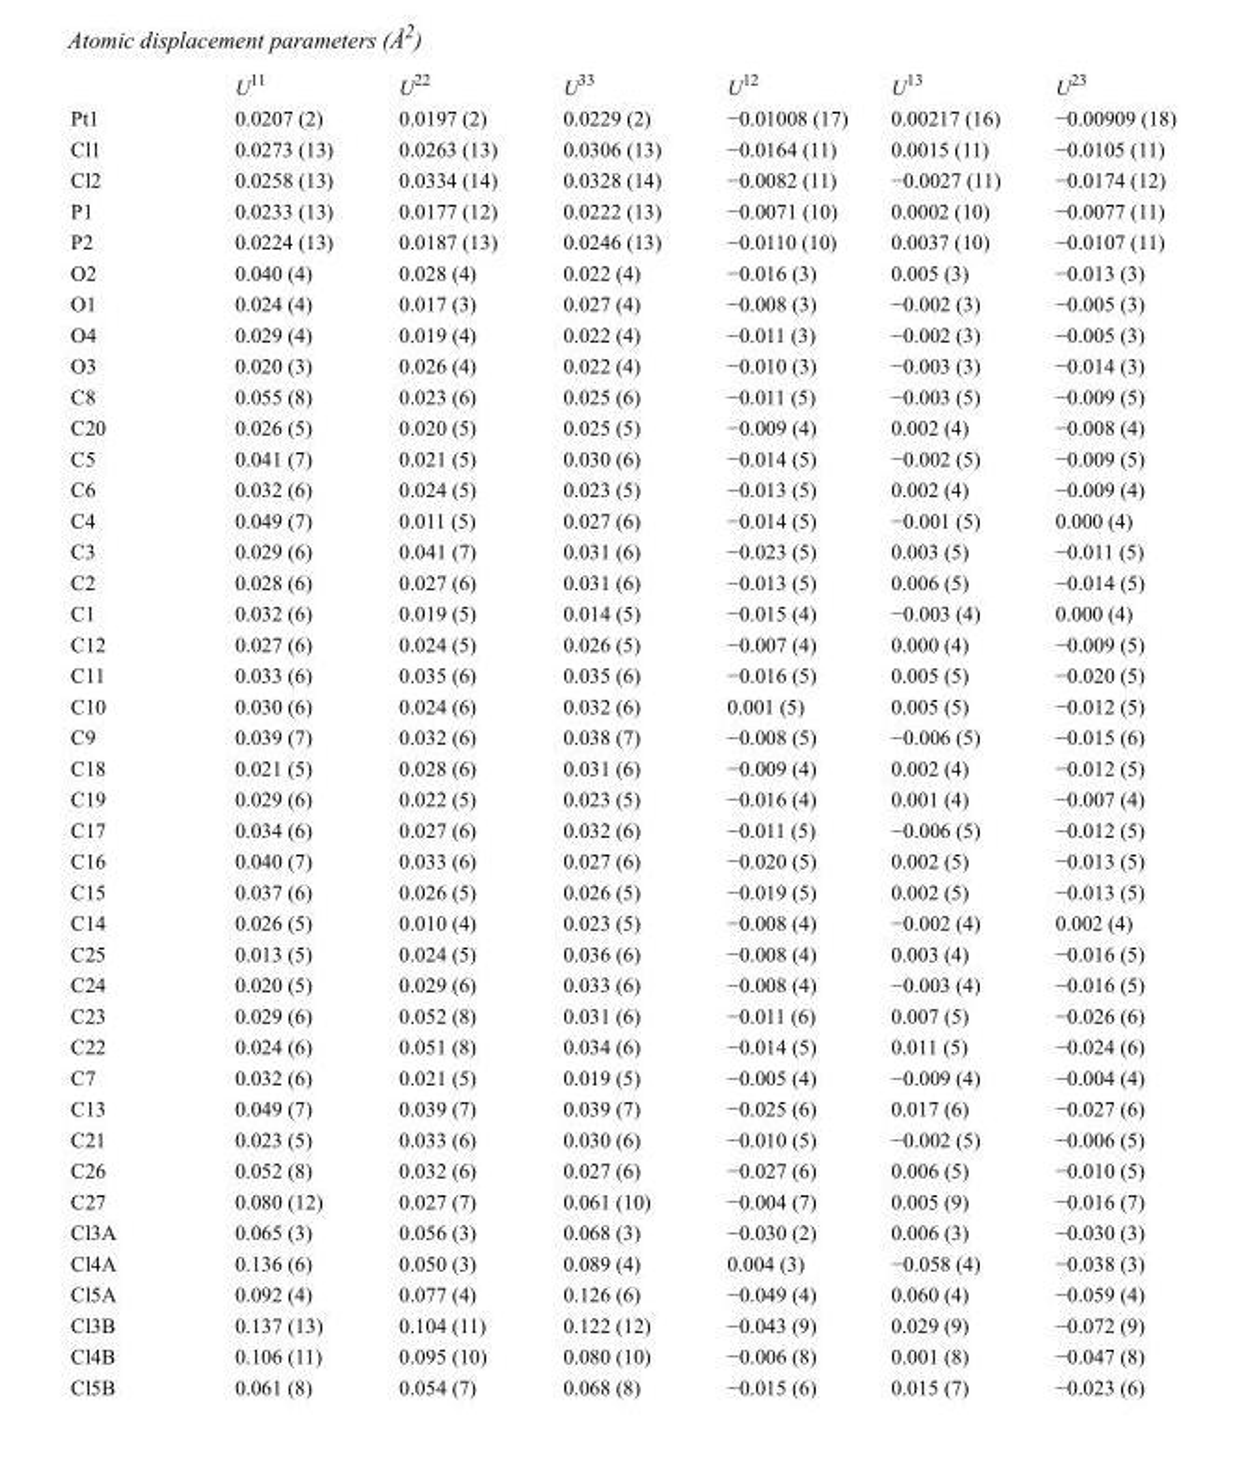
<table><thead><tr><td></td><td>U<sup>11</sup></td><td>U<sup>22</sup></td><td>U<sup>33</sup></td><td>U<sup>12</sup></td><td>U<sup>13</sup></td><td>U<sup>23</sup></td></tr></thead><tbody><tr><td>Pt1</td><td>0.0207 (2)</td><td>0.0197 (2)</td><td>0.0229 (2)</td><td>−0.01008 (17)</td><td>0.00217 (16)</td><td>−0.00909 (18)</td></tr><tr><td>Cl1</td><td>0.0273 (13)</td><td>0.0263 (13)</td><td>0.0306 (13)</td><td>−0.0164 (11)</td><td>0.0015 (11)</td><td>−0.0105 (11)</td></tr><tr><td>Cl2</td><td>0.0258 (13)</td><td>0.0334 (14)</td><td>0.0328 (14)</td><td>−0.0082 (11)</td><td>−0.0027 (11)</td><td>−0.0174 (12)</td></tr><tr><td>P1</td><td>0.0233 (13)</td><td>0.0177 (12)</td><td>0.0222 (13)</td><td>−0.0071 (10)</td><td>0.0002 (10)</td><td>−0.0077 (11)</td></tr><tr><td>P2</td><td>0.0224 (13)</td><td>0.0187 (13)</td><td>0.0246 (13)</td><td>−0.0110 (10)</td><td>0.0037 (10)</td><td>−0.0107 (11)</td></tr><tr><td>O2</td><td>0.040 (4)</td><td>0.028 (4)</td><td>0.022 (4)</td><td>−0.016 (3)</td><td>0.005 (3)</td><td>−0.013 (3)</td></tr><tr><td>O1</td><td>0.024 (4)</td><td>0.017 (3)</td><td>0.027 (4)</td><td>−0.008 (3)</td><td>−0.002 (3)</td><td>−0.005 (3)</td></tr><tr><td>O4</td><td>0.029 (4)</td><td>0.019 (4)</td><td>0.022 (4)</td><td>−0.011 (3)</td><td>−0.002 (3)</td><td>−0.005 (3)</td></tr><tr><td>O3</td><td>0.020 (3)</td><td>0.026 (4)</td><td>0.022 (4)</td><td>−0.010 (3)</td><td>−0.003 (3)</td><td>−0.014 (3)</td></tr><tr><td>C8</td><td>0.055 (8)</td><td>0.023 (6)</td><td>0.025 (6)</td><td>−0.011 (5)</td><td>−0.003 (5)</td><td>−0.009 (5)</td></tr><tr><td>C20</td><td>0.026 (5)</td><td>0.020 (5)</td><td>0.025 (5)</td><td>−0.009 (4)</td><td>0.002 (4)</td><td>−0.008 (4)</td></tr><tr><td>C5</td><td>0.041 (7)</td><td>0.021 (5)</td><td>0.030 (6)</td><td>−0.014 (5)</td><td>−0.002 (5)</td><td>−0.009 (5)</td></tr><tr><td>C6</td><td>0.032 (6)</td><td>0.024 (5)</td><td>0.023 (5)</td><td>−0.013 (5)</td><td>0.002 (4)</td><td>−0.009 (4)</td></tr><tr><td>C4</td><td>0.049 (7)</td><td>0.011 (5)</td><td>0.027 (6)</td><td>−0.014 (5)</td><td>−0.001 (5)</td><td>0.000 (4)</td></tr><tr><td>C3</td><td>0.029 (6)</td><td>0.041 (7)</td><td>0.031 (6)</td><td>−0.023 (5)</td><td>0.003 (5)</td><td>−0.011 (5)</td></tr><tr><td>C2</td><td>0.028 (6)</td><td>0.027 (6)</td><td>0.031 (6)</td><td>−0.013 (5)</td><td>0.006 (5)</td><td>−0.014 (5)</td></tr><tr><td>C1</td><td>0.032 (6)</td><td>0.019 (5)</td><td>0.014 (5)</td><td>−0.015 (4)</td><td>−0.003 (4)</td><td>0.000 (4)</td></tr><tr><td>C12</td><td>0.027 (6)</td><td>0.024 (5)</td><td>0.026 (5)</td><td>−0.007 (4)</td><td>0.000 (4)</td><td>−0.009 (5)</td></tr><tr><td>C11</td><td>0.033 (6)</td><td>0.035 (6)</td><td>0.035 (6)</td><td>−0.016 (5)</td><td>0.005 (5)</td><td>−0.020 (5)</td></tr><tr><td>C10</td><td>0.030 (6)</td><td>0.024 (6)</td><td>0.032 (6)</td><td>0.001 (5)</td><td>0.005 (5)</td><td>−0.012 (5)</td></tr><tr><td>C9</td><td>0.039 (7)</td><td>0.032 (6)</td><td>0.038 (7)</td><td>−0.008 (5)</td><td>−0.006 (5)</td><td>−0.015 (6)</td></tr><tr><td>C18</td><td>0.021 (5)</td><td>0.028 (6)</td><td>0.031 (6)</td><td>−0.009 (4)</td><td>0.002 (4)</td><td>−0.012 (5)</td></tr><tr><td>C19</td><td>0.029 (6)</td><td>0.022 (5)</td><td>0.023 (5)</td><td>−0.016 (4)</td><td>0.001 (4)</td><td>−0.007 (4)</td></tr><tr><td>C17</td><td>0.034 (6)</td><td>0.027 (6)</td><td>0.032 (6)</td><td>−0.011 (5)</td><td>−0.006 (5)</td><td>−0.012 (5)</td></tr><tr><td>C16</td><td>0.040 (7)</td><td>0.033 (6)</td><td>0.027 (6)</td><td>−0.020 (5)</td><td>0.002 (5)</td><td>−0.013 (5)</td></tr><tr><td>C15</td><td>0.037 (6)</td><td>0.026 (5)</td><td>0.026 (5)</td><td>−0.019 (5)</td><td>0.002 (5)</td><td>−0.013 (5)</td></tr><tr><td>C14</td><td>0.026 (5)</td><td>0.010 (4)</td><td>0.023 (5)</td><td>−0.008 (4)</td><td>−0.002 (4)</td><td>0.002 (4)</td></tr><tr><td>C25</td><td>0.013 (5)</td><td>0.024 (5)</td><td>0.036 (6)</td><td>−0.008 (4)</td><td>0.003 (4)</td><td>−0.016 (5)</td></tr><tr><td>C24</td><td>0.020 (5)</td><td>0.029 (6)</td><td>0.033 (6)</td><td>−0.008 (4)</td><td>−0.003 (4)</td><td>−0.016 (5)</td></tr><tr><td>C23</td><td>0.029 (6)</td><td>0.052 (8)</td><td>0.031 (6)</td><td>−0.011 (6)</td><td>0.007 (5)</td><td>−0.026 (6)</td></tr><tr><td>C22</td><td>0.024 (6)</td><td>0.051 (8)</td><td>0.034 (6)</td><td>−0.014 (5)</td><td>0.011 (5)</td><td>−0.024 (6)</td></tr><tr><td>C7</td><td>0.032 (6)</td><td>0.021 (5)</td><td>0.019 (5)</td><td>−0.005 (4)</td><td>−0.009 (4)</td><td>−0.004 (4)</td></tr><tr><td>C13</td><td>0.049 (7)</td><td>0.039 (7)</td><td>0.039 (7)</td><td>−0.025 (6)</td><td>0.017 (6)</td><td>−0.027 (6)</td></tr><tr><td>C21</td><td>0.023 (5)</td><td>0.033 (6)</td><td>0.030 (6)</td><td>−0.010 (5)</td><td>−0.002 (5)</td><td>−0.006 (5)</td></tr><tr><td>C26</td><td>0.052 (8)</td><td>0.032 (6)</td><td>0.027 (6)</td><td>−0.027 (6)</td><td>0.006 (5)</td><td>−0.010 (5)</td></tr><tr><td>C27</td><td>0.080 (12)</td><td>0.027 (7)</td><td>0.061 (10)</td><td>−0.004 (7)</td><td>0.005 (9)</td><td>−0.016 (7)</td></tr><tr><td>Cl3A</td><td>0.065 (3)</td><td>0.056 (3)</td><td>0.068 (3)</td><td>−0.030 (2)</td><td>0.006 (3)</td><td>−0.030 (3)</td></tr><tr><td>Cl4A</td><td>0.136 (6)</td><td>0.050 (3)</td><td>0.089 (4)</td><td>0.004 (3)</td><td>−0.058 (4)</td><td>−0.038 (3)</td></tr><tr><td>Cl5A</td><td>0.092 (4)</td><td>0.077 (4)</td><td>0.126 (6)</td><td>−0.049 (4)</td><td>0.060 (4)</td><td>−0.059 (4)</td></tr><tr><td>Cl3B</td><td>0.137 (13)</td><td>0.104 (11)</td><td>0.122 (12)</td><td>−0.043 (9)</td><td>0.029 (9)</td><td>−0.072 (9)</td></tr><tr><td>Cl4B</td><td>0.106 (11)</td><td>0.095 (10)</td><td>0.080 (10)</td><td>−0.006 (8)</td><td>0.001 (8)</td><td>−0.047 (8)</td></tr><tr><td>Cl5B</td><td>0.061 (8)</td><td>0.054 (7)</td><td>0.068 (8)</td><td>−0.015 (6)</td><td>0.015 (7)</td><td>−0.023 (6)</td></tr></tbody></table>